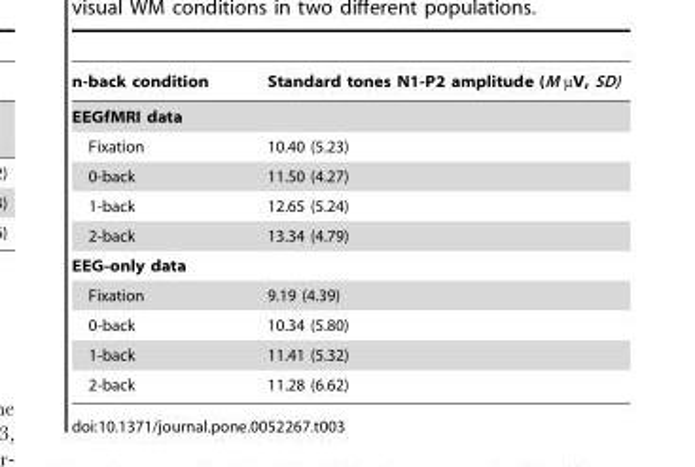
<table><thead><tr><td>n-back condition</td><td>Standard tones N1-P2 amplitude (M µV, SD)</td></tr></thead><tbody><tr><td colspan="2">EEGfMRI data</td></tr><tr><td>Fixation</td><td>10.40 (5.23)</td></tr><tr><td>0-back</td><td>11.50 (4.27)</td></tr><tr><td>1-back</td><td>12.65 (5.24)</td></tr><tr><td>2-back</td><td>13.34 (4.79)</td></tr><tr><td colspan="2">EEG-only data</td></tr><tr><td>Fixation</td><td>9.19 (4.39)</td></tr><tr><td>0-back</td><td>10.34 (5.80)</td></tr><tr><td>1-back</td><td>11.41 (5.32)</td></tr><tr><td>2-back</td><td>11.28 (6.62)</td></tr></tbody></table>